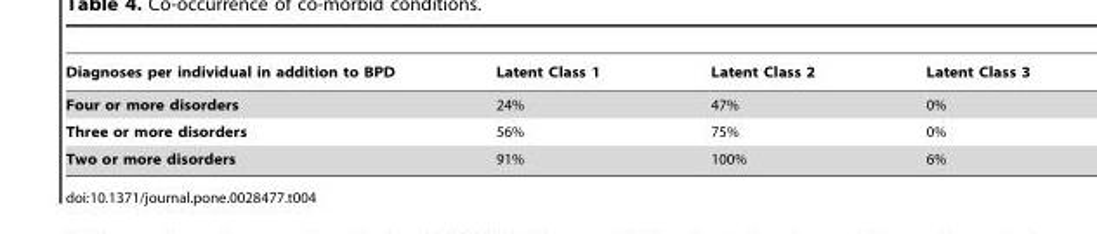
<table><thead><tr><td>Diagnoses per individual in addition to BPD</td><td>Latent Class 1</td><td>Latent Class 2</td><td>Latent Class 3</td></tr></thead><tbody><tr><td>Four or more disorders</td><td>24%</td><td>47%</td><td>0%</td></tr><tr><td>Three or more disorders</td><td>56%</td><td>75%</td><td>0%</td></tr><tr><td>Two or more disorders</td><td>91%</td><td>100%</td><td>6%</td></tr></tbody></table>